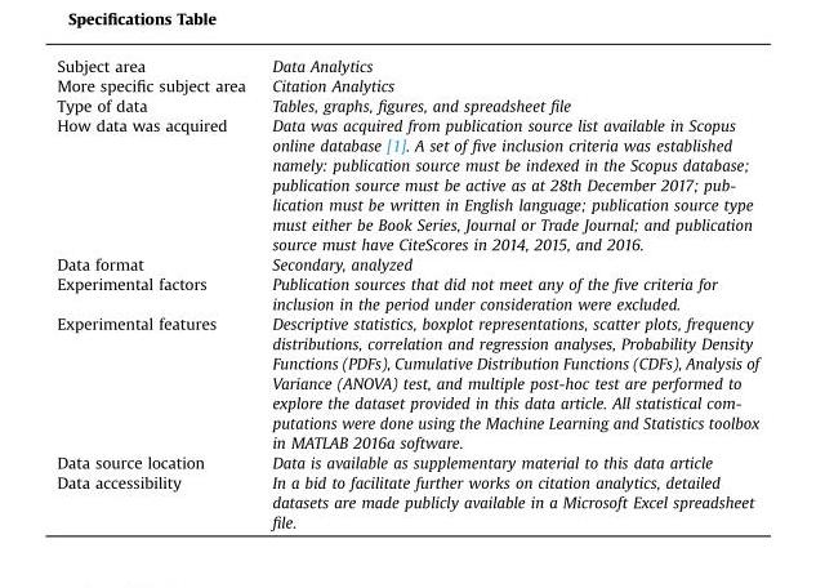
<table><thead><tr><td>Subject area</td><td>Data Analytics</td></tr></thead><tbody><tr><td>More specific subject area</td><td>Citation Analytics</td></tr><tr><td>Type of data</td><td>Tables, graphs, figures, and spreadsheet file</td></tr><tr><td>How data was acquired</td><td>Data was acquired from publication source list available in Scopus online database [1]. A set of five inclusion criteria was established namely: publication source must be indexed in the Scopus database; publication source must be active as at 28th December 2017; pub- lication must be written in English language; publication source type must either be Book Series, Journal or Trade Journal; and publication source must have CiteScores in 2014, 2015, and 2016.</td></tr><tr><td>Data format</td><td>Secondary, analyzed</td></tr><tr><td>Experimental factors</td><td>Publication sources that did not meet any of the five criteria for inclusion in the period under consideration were excluded.</td></tr><tr><td>Experimental features</td><td>Descriptive statistics, boxplot representations, scatter plots, frequency distributions, correlation and regression analyses, Probability Density Functions (PDFs), Cumulative Distribution Functions (CDFs), Analysis of Variance (ANOVA) test, and multiple post-hoc test are performed to explore the dataset provided in this data article. All statistical com- putations were done using the Machine Learning and Statistics toolbox in MATLAB 2016a software.</td></tr><tr><td>Data source location</td><td>Data is available as supplementary material to this data article</td></tr><tr><td>Data accessibility</td><td>In a bid to facilitate further works on citation analytics, detailed datasets are made publicly available in a Microsoft Excel spreadsheet file.</td></tr></tbody></table>